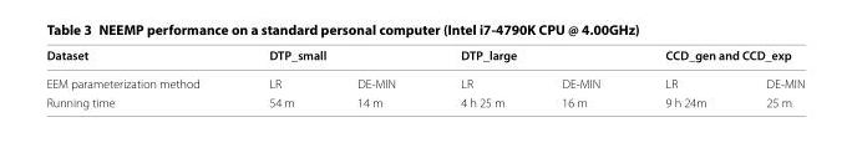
<table><thead><tr><td rowspan="2">Dataset EEM parameterization method</td><td colspan="2">DTP_small</td><td colspan="2">DTP_large</td><td colspan="2">CCD_gen and CCD_exp</td></tr><tr><td>LR</td><td>DE-MIN</td><td>LR</td><td>DE-MIN</td><td>LR</td><td>DE-MIN</td></tr></thead><tbody><tr><td>Running time</td><td>54 m</td><td>14 m</td><td>4 h 25 m</td><td>16 m</td><td>9 h 24m</td><td>25 m</td></tr></tbody></table>